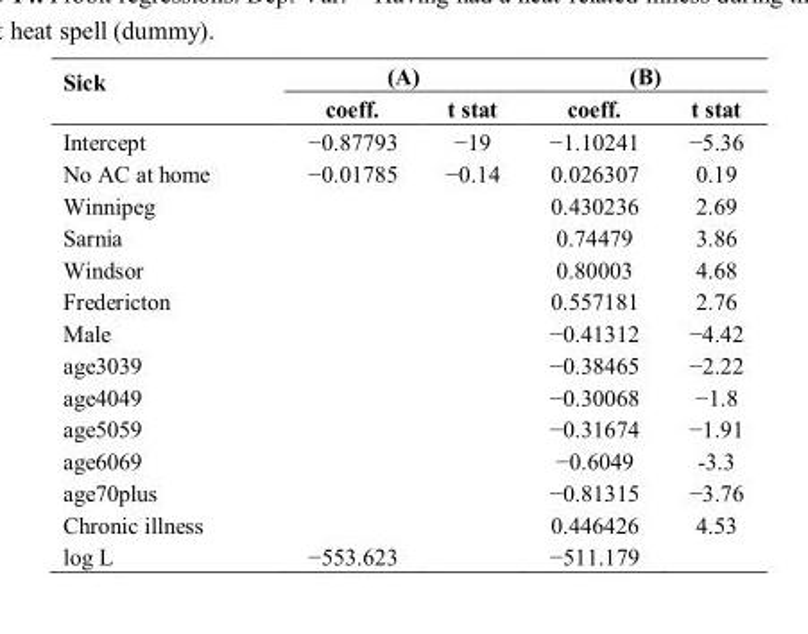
<table><thead><tr><td rowspan="2">Sick</td><td colspan="2">(A)</td><td colspan="2">(B)</td></tr><tr><td>coeff.</td><td>t stat</td><td>coeff.</td><td>t stat</td></tr></thead><tbody><tr><td>Intercept</td><td>−0.87793</td><td>−19</td><td>−1.10241</td><td>−5.36</td></tr><tr><td>No AC at home</td><td>−0.01785</td><td>−0.14</td><td>0.026307</td><td>0.19</td></tr><tr><td>Winnipeg</td><td></td><td></td><td>0.430236</td><td>2.69</td></tr><tr><td>Sarnia</td><td></td><td></td><td>0.74479</td><td>3.86</td></tr><tr><td>Windsor</td><td></td><td></td><td>0.80003</td><td>4.68</td></tr><tr><td>Fredericton</td><td></td><td></td><td>0.557181</td><td>2.76</td></tr><tr><td>Male</td><td></td><td></td><td>−0.41312</td><td>−4.42</td></tr><tr><td>age3039</td><td></td><td></td><td>−0.38465</td><td>−2.22</td></tr><tr><td>age4049</td><td></td><td></td><td>−0.30068</td><td>−1.8</td></tr><tr><td>age5059</td><td></td><td></td><td>−0.31674</td><td>−1.91</td></tr><tr><td>age6069</td><td></td><td></td><td>−0.6049</td><td>-3.3</td></tr><tr><td>age70plus</td><td></td><td></td><td>−0.81315</td><td>−3.76</td></tr><tr><td>Chronic illness</td><td></td><td></td><td>0.446426</td><td>4.53</td></tr><tr><td>log L</td><td>−553.623</td><td></td><td>−511.179</td><td></td></tr></tbody></table>